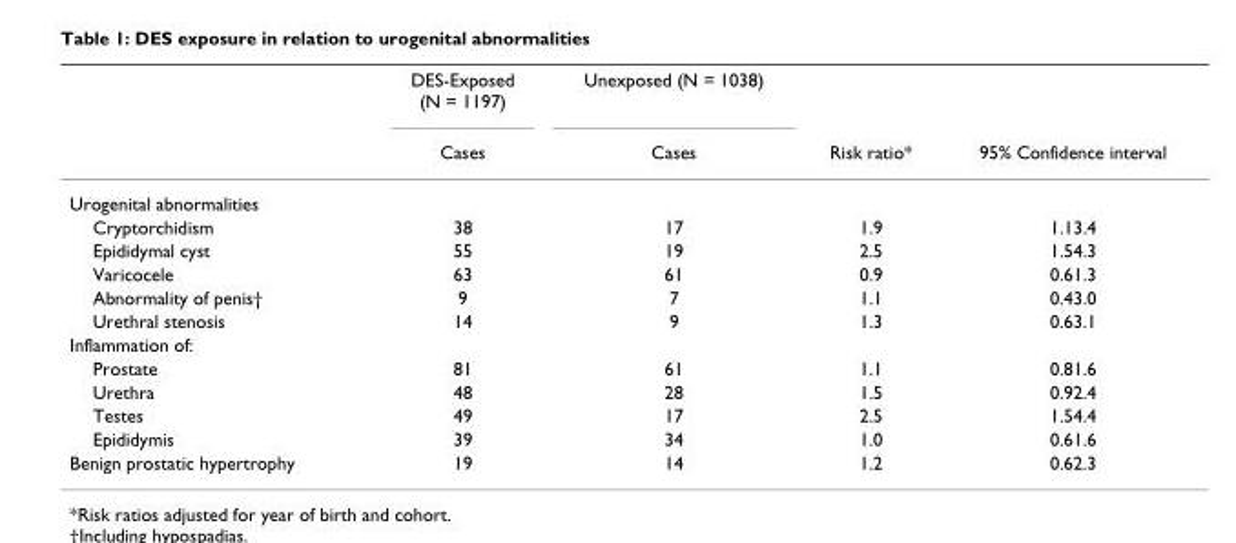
<table><thead><tr><td rowspan="2"></td><td rowspan="2">DES-Exposed (N = 1197) Cases</td><td rowspan="2">Unexposed (N = 1038) Cases</td><td rowspan="2">Risk ratio*</td><td rowspan="2">95% Confidence interval</td></tr><tr></tr></thead><tbody><tr><td colspan="5">Urogenital abnormalities</td></tr><tr><td>Cryptorchidism</td><td>38</td><td>17</td><td>1.9</td><td>1.13.4</td></tr><tr><td>Epididymal cyst</td><td>55</td><td>19</td><td>2.5</td><td>1.54.3</td></tr><tr><td>Varicocele</td><td>63</td><td>61</td><td>0.9</td><td>0.61.3</td></tr><tr><td>Abnormality of penis†</td><td>9</td><td>7</td><td>1.1</td><td>0.43.0</td></tr><tr><td>Urethral stenosis</td><td>14</td><td>9</td><td>1.3</td><td>0.63.1</td></tr><tr><td colspan="5">Inflammation of:</td></tr><tr><td>Prostate</td><td>81</td><td>61</td><td>1.1</td><td>0.81.6</td></tr><tr><td>Urethra</td><td>48</td><td>28</td><td>1.5</td><td>0.92.4</td></tr><tr><td>Testes</td><td>49</td><td>17</td><td>2.5</td><td>1.54.4</td></tr><tr><td>Epididymis</td><td>39</td><td>34</td><td>1.0</td><td>0.61.6</td></tr><tr><td>Benign prostatic hypertrophy</td><td>19</td><td>14</td><td>1.2</td><td>0.62.3</td></tr></tbody></table>